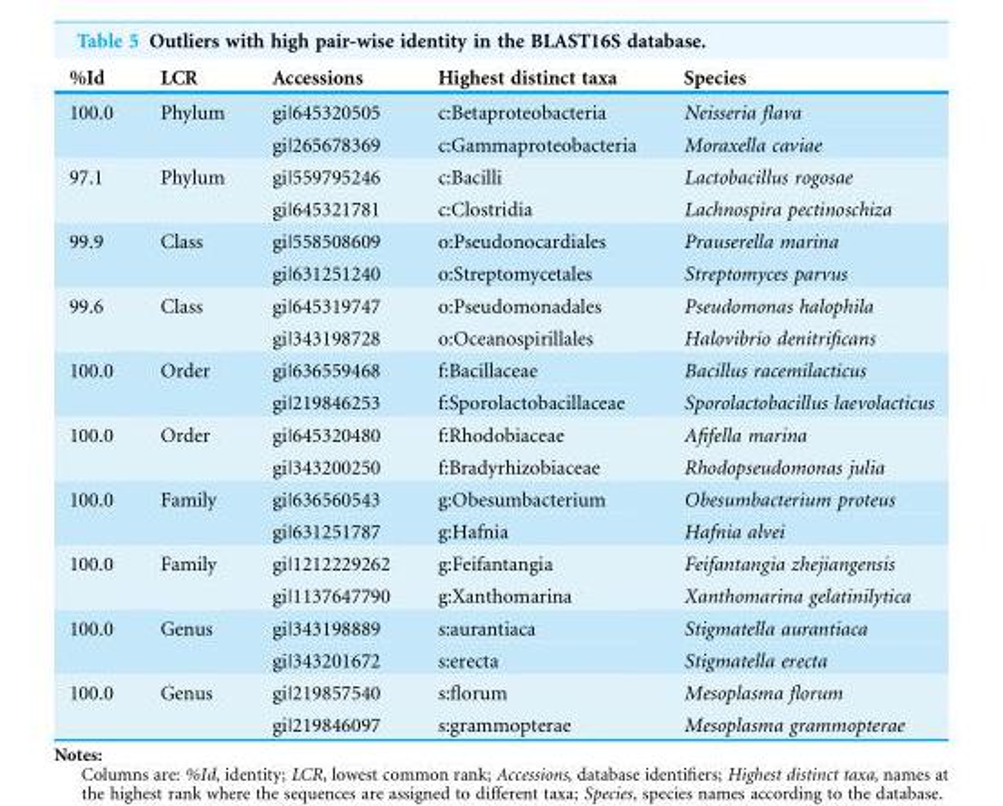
<table><thead><tr><td>%Id</td><td>LCR</td><td>Accessions</td><td>Highest distinct taxa</td><td>Species</td></tr></thead><tbody><tr><td rowspan="2">100.0</td><td rowspan="2">Phylum</td><td>gi|645320505</td><td>c:Betaproteobacteria</td><td>Neisseria flava</td></tr><tr><td>gi|265678369</td><td>c:Gammaproteobacteria</td><td>Moraxella caviae</td></tr><tr><td rowspan="2">97.1</td><td rowspan="2">Phylum</td><td>gi|559795246</td><td>c:Bacilli</td><td>Lactobacillus rogosae</td></tr><tr><td>gi|645321781</td><td>c:Clostridia</td><td>Lachnospira pectinoschiza</td></tr><tr><td rowspan="2">99.9</td><td rowspan="2">Class</td><td>gi|558508609</td><td>o:Pseudonocardiales</td><td>Prauserella marina</td></tr><tr><td>gi|631251240</td><td>o:Streptomycetales</td><td>Streptomyces parvus</td></tr><tr><td rowspan="2">99.6</td><td rowspan="2">Class</td><td>gi|645319747</td><td>o:Pseudomonadales</td><td>Pseudomonas halophila</td></tr><tr><td>gi|343198728</td><td>o:Oceanospirillales</td><td>Halovibrio denitrificans</td></tr><tr><td rowspan="2">100.0</td><td rowspan="2">Order</td><td>gi|636559468</td><td>f:Bacillaceae</td><td>Bacillus racemilacticus</td></tr><tr><td>gi|219846253</td><td>f:Sporolactobacillaceae</td><td>Sporolactobacillus laevolacticus</td></tr><tr><td rowspan="2">100.0</td><td rowspan="2">Order</td><td>gi|645320480</td><td>f:Rhodobiaceae</td><td>Afifella marina</td></tr><tr><td>gi|343200250</td><td>f:Bradyrhizobiaceae</td><td>Rhodopseudomonas julia</td></tr><tr><td rowspan="2">100.0</td><td rowspan="2">Family</td><td>gi|636560543</td><td>g:Obesumbacterium</td><td>Obesumbacterium proteus</td></tr><tr><td>gi|631251787</td><td>g:Hafnia</td><td>Hafnia alvei</td></tr><tr><td rowspan="2">100.0</td><td rowspan="2">Family</td><td>gi|1212229262</td><td>g:Feifantangia</td><td>Feifantangia zhejiangensis</td></tr><tr><td>gi|1137647790</td><td>g:Xanthomarina</td><td>Xanthomarina gelatinilytica</td></tr><tr><td rowspan="2">100.0</td><td rowspan="2">Genus</td><td>gi|343198889</td><td>s:aurantiaca</td><td>Stigmatella aurantiaca</td></tr><tr><td>gi|343201672</td><td>s:erecta</td><td>Stigmatella erecta</td></tr><tr><td rowspan="2">100.0</td><td rowspan="2">Genus</td><td>gi|219857540</td><td>s:florum</td><td>Mesoplasma florum</td></tr><tr><td>gi|219846097</td><td>s:grammopterae</td><td>Mesoplasma grammopterae</td></tr></tbody></table>